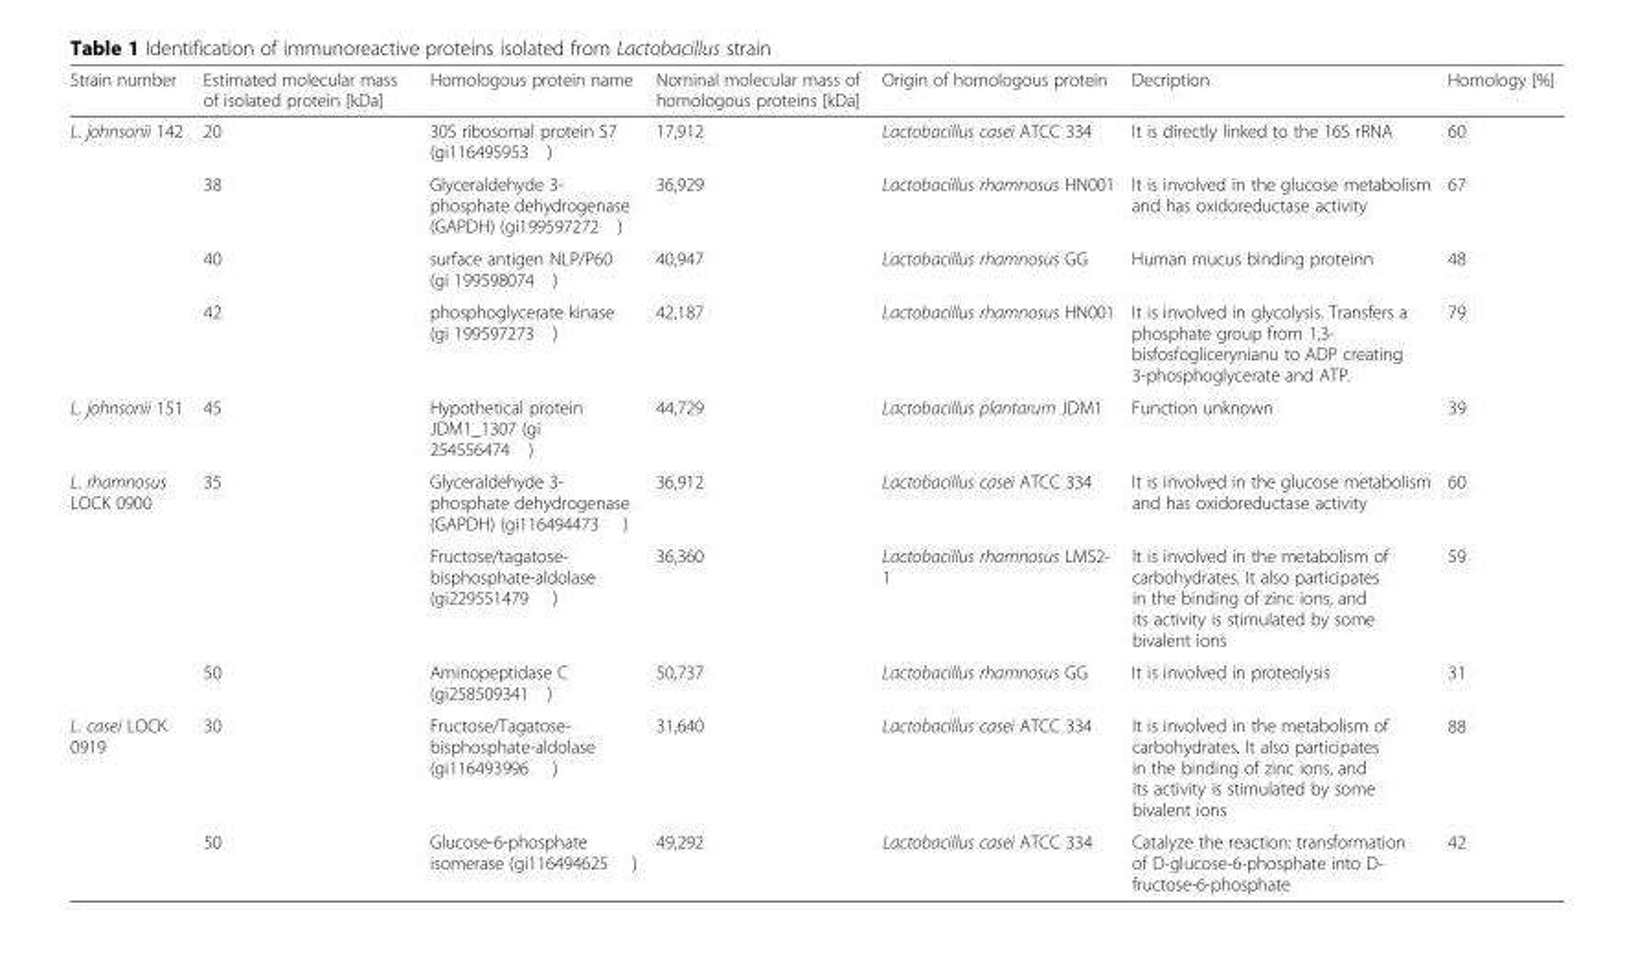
<table><thead><tr><td>Strain number</td><td>Estimated molecular mass of isolated protein [kDa]</td><td>Homologous protein name</td><td>Nominal molecular mass of homologous proteins [kDa]</td><td>Origin of homologous protein</td><td>Decription</td><td>Homology [%]</td></tr></thead><tbody><tr><td rowspan="4">L. johnsonii 142</td><td>20</td><td>30S ribosomal protein S7 (gi116495953 )</td><td>17,912</td><td>Lactobacillus casei ATCC 334</td><td>It is directly linked to the 16S rRNA</td><td>60</td></tr><tr><td>38</td><td>Glyceraldehyde 3- phosphate dehydrogenase (GAPDH) (gi199597272 )</td><td>36,929</td><td>Lactobacillus rhamnosus HN001</td><td>It is involved in the glucose metabolism and has oxidoreductase activity</td><td>67</td></tr><tr><td>40</td><td>surface antigen NLP/P60 (gi 199598074 )</td><td>40,947</td><td>Lactobacillus rhamnosus GG</td><td>Human mucus binding proteinn</td><td>48</td></tr><tr><td>42</td><td>phosphoglycerate kinase (gi 199597273 )</td><td>42,187</td><td>Lactobacillus rhamnosus HN001</td><td>It is involved in glycolysis. Transfers a phosphate group from 1,3- bisfosfoglicerynianu to ADP creating 3-phosphoglycerate and ATP.</td><td>79</td></tr><tr><td>L. johnsonii 151</td><td>45</td><td>Hypothetical protein JDM1_1307 (gi 254556474 )</td><td>44,729</td><td>Lactobacillus plantarum JDM1</td><td>Function unknown</td><td>39</td></tr><tr><td rowspan="3">L. rhamnosus LOCK 0900</td><td rowspan="2">35</td><td>Glyceraldehyde 3- phosphate dehydrogenase (GAPDH) (gi116494473 )</td><td>36,912</td><td>Lactobacillus casei ATCC 334</td><td>It is involved in the glucose metabolism and has oxidoreductase activity</td><td>60</td></tr><tr><td>Fructose/tagatose- bisphosphate-aldolase (gi229551479 )</td><td>36,360</td><td>Lactobacillus rhamnosus LMS2- 1</td><td>It is involved in the metabolism of carbohydrates. It also participates in the binding of zinc ions, and its activity is stimulated by some bivalent ions</td><td>59</td></tr><tr><td>50</td><td>Aminopeptidase C (gi258509341 )</td><td>50,737</td><td>Lactobacillus rhamnosus GG</td><td>It is involved in proteolysis</td><td>31</td></tr><tr><td rowspan="2">L. casei LOCK 0919</td><td>30</td><td>Fructose/Tagatose- bisphosphate-aldolase (gi116493996 )</td><td>31,640</td><td>Lactobacillus casei ATCC 334</td><td>It is involved in the metabolism of carbohydrates. It also participates in the binding of zinc ions, and its activity is stimulated by some bivalent ions</td><td>88</td></tr><tr><td>50</td><td>Glucose-6-phosphate isomerase (gi116494625 )</td><td>49,292</td><td>Lactobacillus casei ATCC 334</td><td>Catalyze the reaction: transformation of D-glucose-6-phosphate into D- fructose-6-phosphate</td><td>42</td></tr></tbody></table>